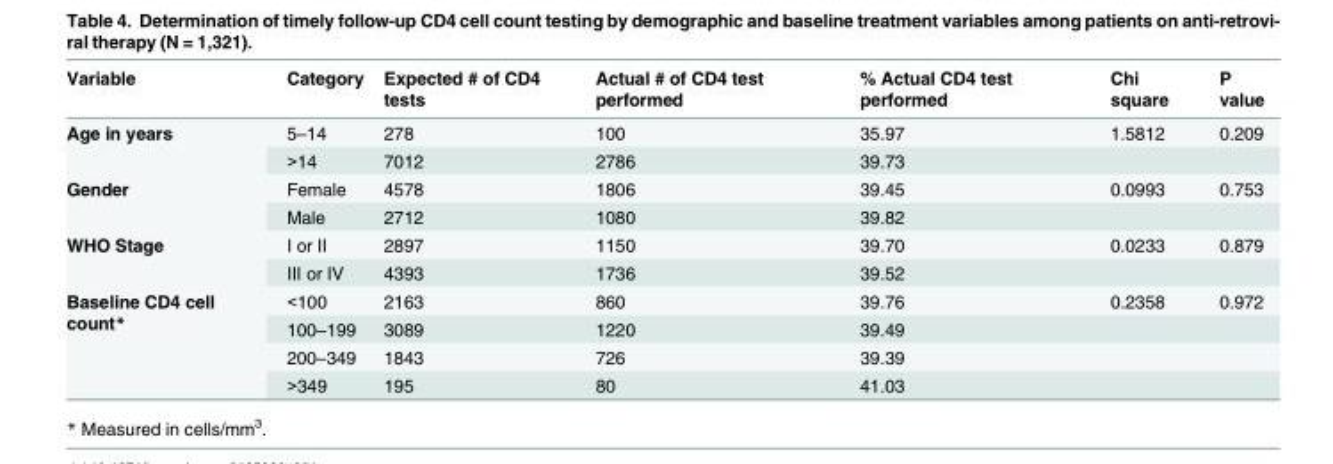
<table><thead><tr><td>Variable</td><td>Category</td><td>Expected # of CD4 tests</td><td>Actual # of CD4 test performed</td><td>% Actual CD4 test performed</td><td>Chi square</td><td>P value</td></tr></thead><tbody><tr><td rowspan="2">Age in years</td><td>5–14</td><td>278</td><td>100</td><td>35.97</td><td>1.5812</td><td>0.209</td></tr><tr><td>&gt;14</td><td>7012</td><td>2786</td><td>39.73</td><td></td><td></td></tr><tr><td rowspan="2">Gender</td><td>Female</td><td>4578</td><td>1806</td><td>39.45</td><td>0.0993</td><td>0.753</td></tr><tr><td>Male</td><td>2712</td><td>1080</td><td>39.82</td><td></td><td></td></tr><tr><td rowspan="2">WHO Stage</td><td>I or II</td><td>2897</td><td>1150</td><td>39.70</td><td>0.0233</td><td>0.879</td></tr><tr><td>III or IV</td><td>4393</td><td>1736</td><td>39.52</td><td></td><td></td></tr><tr><td rowspan="4">Baseline CD4 cell count*</td><td>&lt;100</td><td>2163</td><td>860</td><td>39.76</td><td>0.2358</td><td>0.972</td></tr><tr><td>100–199</td><td>3089</td><td>1220</td><td>39.49</td><td></td><td></td></tr><tr><td>200–349</td><td>1843</td><td>726</td><td>39.39</td><td></td><td></td></tr><tr><td>&gt;349</td><td>195</td><td>80</td><td>41.03</td><td></td><td></td></tr></tbody></table>